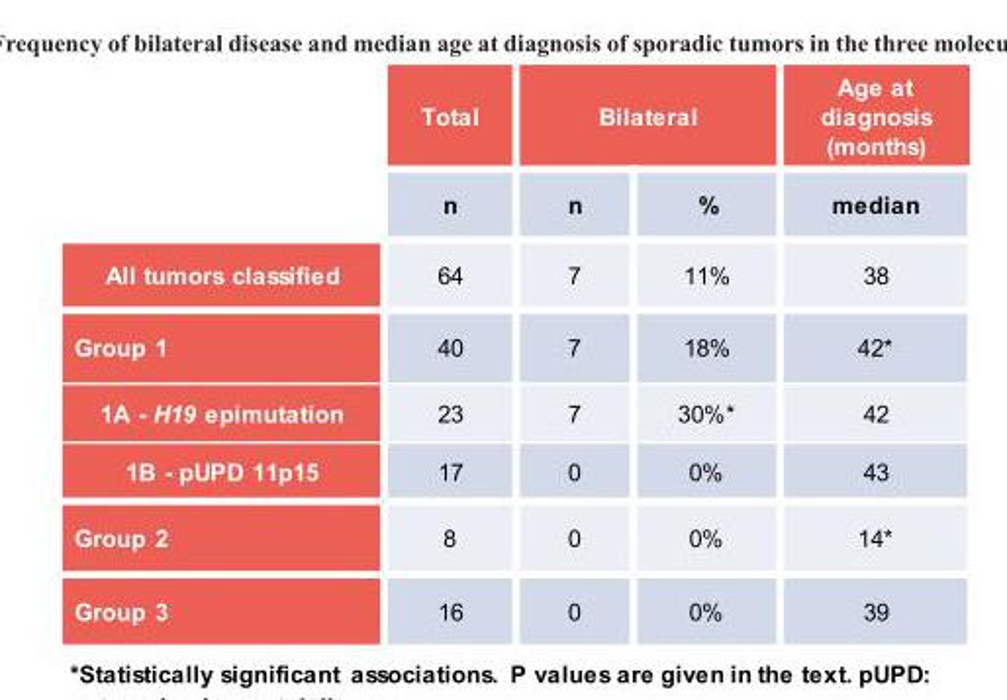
<table><thead><tr><td rowspan="2"></td><td rowspan="2">Total n</td><td colspan="2">Bilateral</td><td rowspan="2">Age at diagnosis (months) median</td></tr><tr><td>n</td><td>%</td></tr></thead><tbody><tr><td>All tumors classified</td><td>64</td><td>7</td><td>11%</td><td>38</td></tr><tr><td>Group 1</td><td>40</td><td>7</td><td>18%</td><td>42*</td></tr><tr><td>1A - H19 epimutation</td><td>23</td><td>7</td><td>30%*</td><td>42</td></tr><tr><td>1B - pUPD 11p15</td><td>17</td><td>0</td><td>0%</td><td>43</td></tr><tr><td>Group 2</td><td>8</td><td>0</td><td>0%</td><td>14*</td></tr><tr><td>Group 3</td><td>16</td><td>0</td><td>0%</td><td>39</td></tr></tbody></table>